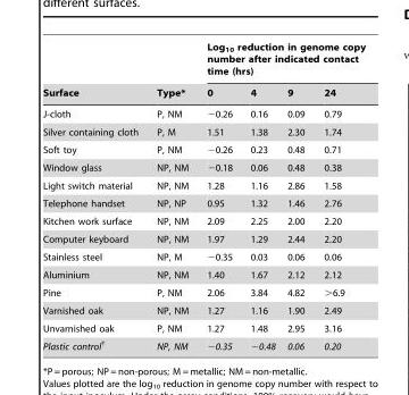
<table><thead><tr><td rowspan="2">Surface</td><td rowspan="2">Type*</td><td colspan="4">Log<sub>10</sub> reduction in genome copy number after indicated contact time (hrs)</td></tr><tr><td>0</td><td>4</td><td>9</td><td>24</td></tr></thead><tbody><tr><td>J-cloth</td><td>P, NM</td><td>−0.26</td><td>0.16</td><td>0.09</td><td>0.79</td></tr><tr><td>Silver containing cloth</td><td>P, M</td><td>1.51</td><td>1.38</td><td>2.30</td><td>1.74</td></tr><tr><td>Soft toy</td><td>P, NM</td><td>−0.26</td><td>0.23</td><td>0.48</td><td>0.71</td></tr><tr><td>Window glass</td><td>NP, NM</td><td>−0.18</td><td>0.06</td><td>0.48</td><td>0.38</td></tr><tr><td>Light switch material</td><td>NP, NM</td><td>1.28</td><td>1.16</td><td>2.86</td><td>1.58</td></tr><tr><td>Telephone handset</td><td>NP, NP</td><td>0.95</td><td>1.32</td><td>1.46</td><td>2.76</td></tr><tr><td>Kitchen work surface</td><td>NP, NM</td><td>2.09</td><td>2.25</td><td>2.00</td><td>2.20</td></tr><tr><td>Computer keyboard</td><td>NP, NM</td><td>1.97</td><td>1.29</td><td>2.44</td><td>2.20</td></tr><tr><td>Stainless steel</td><td>NP, M</td><td>−0.35</td><td>0.03</td><td>0.06</td><td>0.06</td></tr><tr><td>Aluminium</td><td>NP, NM</td><td>1.40</td><td>1.67</td><td>2.12</td><td>2.12</td></tr><tr><td>Pine</td><td>P, NM</td><td>2.06</td><td>3.84</td><td>4.82</td><td>&gt;6.9</td></tr><tr><td>Varnished oak</td><td>NP, NM</td><td>1.27</td><td>1.16</td><td>1.90</td><td>2.49</td></tr><tr><td>Unvarnished oak</td><td>P, NM</td><td>1.27</td><td>1.48</td><td>2.95</td><td>3.16</td></tr><tr><td>Plastic control†</td><td>NP, NM</td><td>−0.35</td><td>−0.48</td><td>0.06</td><td>0.20</td></tr></tbody></table>